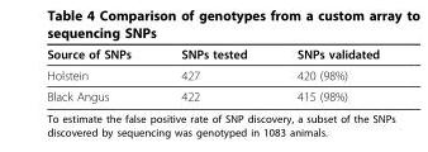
<table><thead><tr><td>Source of SNPs</td><td>SNPs tested</td><td>SNPs validated</td></tr></thead><tbody><tr><td>Holstein</td><td>427</td><td>420 (98%)</td></tr><tr><td>Black Angus</td><td>422</td><td>415 (98%)</td></tr></tbody></table>